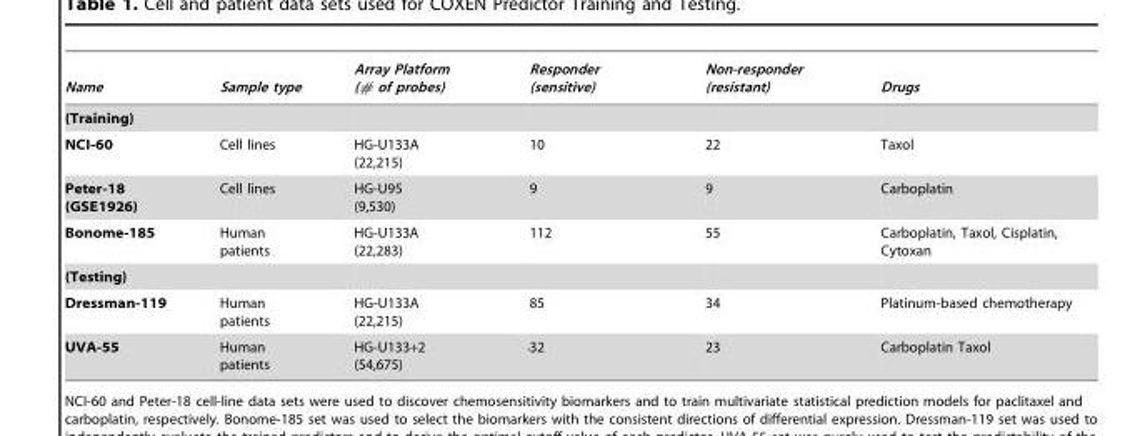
<table><thead><tr><td>Name</td><td>Sample type</td><td>Array Platform (# of probes)</td><td>Responder (sensitive)</td><td>Non-responder (resistant)</td><td>Drugs</td></tr></thead><tbody><tr><td colspan="6">(Training)</td></tr><tr><td>NCI-60</td><td>Cell lines</td><td>HG-U133A (22,215)</td><td>10</td><td>22</td><td>Taxol</td></tr><tr><td>Peter-18 (GSE1926)</td><td>Cell lines</td><td>HG-U95 (9,530)</td><td>9</td><td>9</td><td>Carboplatin</td></tr><tr><td>Bonome-185</td><td>Human patients</td><td>HG-U133A (22,283)</td><td>112</td><td>55</td><td>Carboplatin, Taxol, Cisplatin, Cytoxan</td></tr><tr><td colspan="6">(Testing)</td></tr><tr><td>Dressman-119</td><td>Human patients</td><td>HG-U133A (22,215)</td><td>85</td><td>34</td><td>Platinum-based chemotherapy</td></tr><tr><td>UVA-55</td><td>Human patients</td><td>HG-U133+2 (54,675)</td><td>‵32</td><td>23</td><td>Carboplatin Taxol</td></tr></tbody></table>